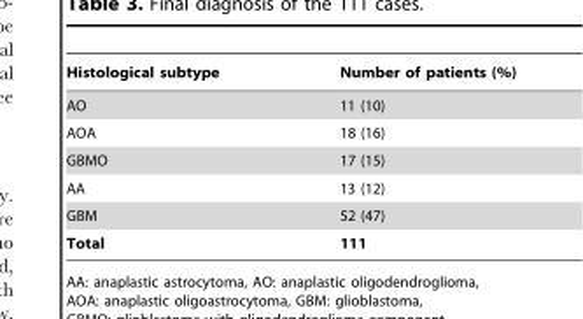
<table><thead><tr><td>Histological subtype</td><td>Number of patients (%)</td></tr></thead><tbody><tr><td>AO</td><td>11 (10)</td></tr><tr><td>AOA</td><td>18 (16)</td></tr><tr><td>GBMO</td><td>17 (15)</td></tr><tr><td>AA</td><td>13 (12)</td></tr><tr><td>GBM</td><td>52 (47)</td></tr><tr><td>Total</td><td>111</td></tr></tbody></table>